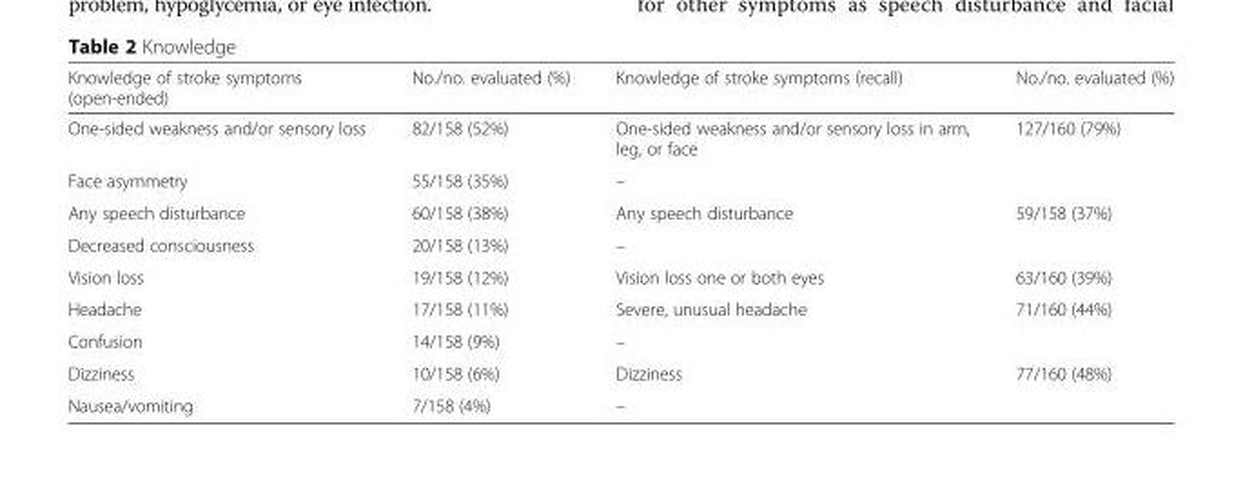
<table><thead><tr><td>Knowledge of stroke symptoms (open-ended)</td><td>No./no. evaluated (%)</td><td>Knowledge of stroke symptoms (recall)</td><td>No./no. evaluated (%)</td></tr></thead><tbody><tr><td>One-sided weakness and/or sensory loss</td><td>82/158 (52%)</td><td>One-sided weakness and/or sensory loss in arm, leg, or face</td><td>127/160 (79%)</td></tr><tr><td>Face asymmetry</td><td>55/158 (35%)</td><td>–</td><td></td></tr><tr><td>Any speech disturbance</td><td>60/158 (38%)</td><td>Any speech disturbance</td><td>59/158 (37%)</td></tr><tr><td>Decreased consciousness</td><td>20/158 (13%)</td><td>–</td><td></td></tr><tr><td>Vision loss</td><td>19/158 (12%)</td><td>Vision loss one or both eyes</td><td>63/160 (39%)</td></tr><tr><td>Headache</td><td>17/158 (11%)</td><td>Severe, unusual headache</td><td>71/160 (44%)</td></tr><tr><td>Confusion</td><td>14/158 (9%)</td><td>–</td><td></td></tr><tr><td>Dizziness</td><td>10/158 (6%)</td><td>Dizziness</td><td>77/160 (48%)</td></tr><tr><td>Nausea/vomiting</td><td>7/158 (4%)</td><td>–</td><td></td></tr></tbody></table>